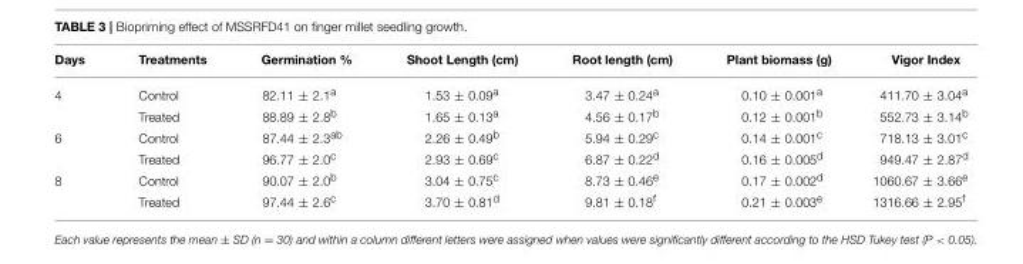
<table><thead><tr><td>Days</td><td>Treatments</td><td>Germination %</td><td>Shoot Length (cm)</td><td>Root length (cm)</td><td>Plant biomass (g)</td><td>Vigor Index</td></tr></thead><tbody><tr><td rowspan="2">4</td><td>Control</td><td>82.11 ± 2.1<sup>a</sup></td><td>1.53 ± 0.09<sup>a</sup></td><td>3.47 ± 0.24<sup>a</sup></td><td>0.10 ± 0.001<sup>a</sup></td><td>411.70 ± 3.04<sup>a</sup></td></tr><tr><td>Treated</td><td>88.89 ± 2.8<sup>b</sup></td><td>1.65 ± 0.13<sup>a</sup></td><td>4.56 ± 0.17<sup>b</sup></td><td>0.12 ± 0.001<sup>b</sup></td><td>552.73 ± 3.14<sup>b</sup></td></tr><tr><td rowspan="2">6</td><td>Control</td><td>87.44 ± 2.3<sup>ab</sup></td><td>2.26 ± 0.49<sup>b</sup></td><td>5.94 ± 0.29<sup>c</sup></td><td>0.14 ± 0.001<sup>c</sup></td><td>718.13 ± 3.01<sup>c</sup></td></tr><tr><td>Treated</td><td>96.77 ± 2.0<sup>c</sup></td><td>2.93 ± 0.69<sup>c</sup></td><td>6.87 ± 0.22<sup>d</sup></td><td>0.16 ± 0.005<sup>d</sup></td><td>949.47 ± 2.87<sup>d</sup></td></tr><tr><td rowspan="2">8</td><td>Control</td><td>90.07 ± 2.0<sup>b</sup></td><td>3.04 ± 0.75<sup>c</sup></td><td>8.73 ± 0.46<sup>e</sup></td><td>0.17 ± 0.002<sup>d</sup></td><td>1060.67 ± 3.66<sup>e</sup></td></tr><tr><td>Treated</td><td>97.44 ± 2.6<sup>c</sup></td><td>3.70 ± 0.81<sup>d</sup></td><td>9.81 ± 0.18<sup>f</sup></td><td>0.21 ± 0.003<sup>e</sup></td><td>1316.66 ± 2.95<sup>f</sup></td></tr></tbody></table>